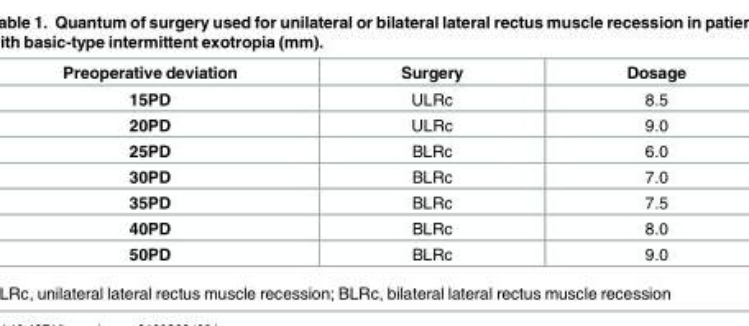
<table><thead><tr><td>Preoperative deviation</td><td>Surgery</td><td>Dosage</td></tr></thead><tbody><tr><td>15PD</td><td>ULRc</td><td>8.5</td></tr><tr><td>20PD</td><td>ULRc</td><td>9.0</td></tr><tr><td>25PD</td><td>BLRc</td><td>6.0</td></tr><tr><td>30PD</td><td>BLRc</td><td>7.0</td></tr><tr><td>35PD</td><td>BLRc</td><td>7.5</td></tr><tr><td>40PD</td><td>BLRc</td><td>8.0</td></tr><tr><td>50PD</td><td>BLRc</td><td>9.0</td></tr></tbody></table>